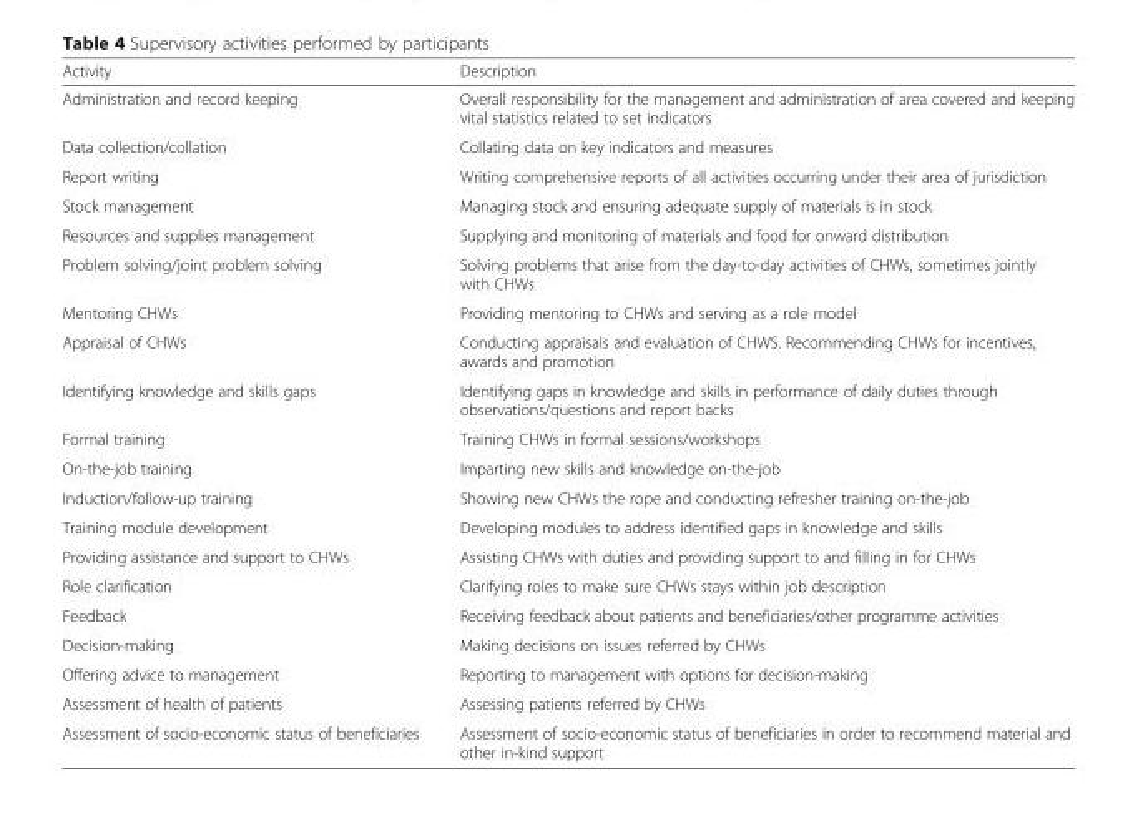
<table><thead><tr><td>Activity</td><td>Description</td></tr></thead><tbody><tr><td>Administration and record keeping</td><td>Overall responsibility for the management and administration of area covered and keeping vital statistics related to set indicators</td></tr><tr><td>Data collection/collation</td><td>Collating data on key indicators and measures</td></tr><tr><td>Report writing</td><td>Writing comprehensive reports of all activities occurring under their area of jurisdiction</td></tr><tr><td>Stock management</td><td>Managing stock and ensuring adequate supply of materials is in stock</td></tr><tr><td>Resources and supplies management</td><td>Supplying and monitoring of materials and food for onward distribution</td></tr><tr><td>Problem solving/joint problem solving</td><td>Solving problems that arise from the day-to-day activities of CHWs, sometimes jointly with CHWs</td></tr><tr><td>Mentoring CHWs</td><td>Providing mentoring to CHWs and serving as a role model</td></tr><tr><td>Appraisal of CHWs</td><td>Conducting appraisals and evaluation of CHWS. Recommending CHWs for incentives, awards and promotion</td></tr><tr><td>Identifying knowledge and skills gaps</td><td>Identifying gaps in knowledge and skills in performance of daily duties through observations/questions and report backs</td></tr><tr><td>Formal training</td><td>Training CHWs in formal sessions/workshops</td></tr><tr><td>On-the-job training</td><td>Imparting new skills and knowledge on-the-job</td></tr><tr><td>Induction/follow-up training</td><td>Showing new CHWs the rope and conducting refresher training on-the-job</td></tr><tr><td>Training module development</td><td>Developing modules to address identified gaps in knowledge and skills</td></tr><tr><td>Providing assistance and support to CHWs</td><td>Assisting CHWs with duties and providing support to and filling in for CHWs</td></tr><tr><td>Role clarification</td><td>Clarifying roles to make sure CHWs stays within job description</td></tr><tr><td>Feedback</td><td>Receiving feedback about patients and beneficiaries/other programme activities</td></tr><tr><td>Decision-making</td><td>Making decisions on issues referred by CHWs</td></tr><tr><td>Offering advice to management</td><td>Reporting to management with options for decision-making</td></tr><tr><td>Assessment of health of patients</td><td>Assessing patients referred by CHWs</td></tr><tr><td>Assessment of socio-economic status of beneficiaries</td><td>Assessment of socio-economic status of beneficiaries in order to recommend material and other in-kind support</td></tr></tbody></table>